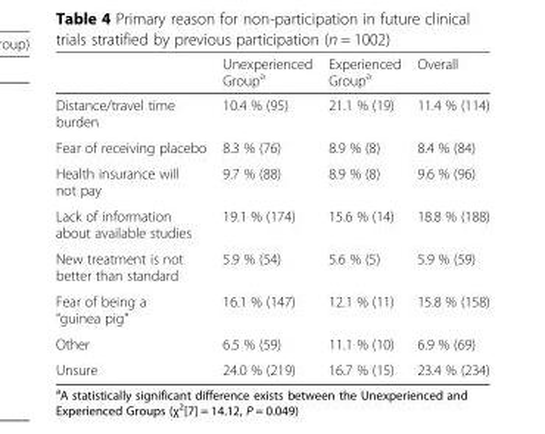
<table><thead><tr><td></td><td>Unexperienced Group<sup>a</sup></td><td>Experienced Group<sup>a</sup></td><td>Overall</td></tr></thead><tbody><tr><td>Distance/travel time burden</td><td>10.4 % (95)</td><td>21.1 % (19)</td><td>11.4 % (114)</td></tr><tr><td>Fear of receiving placebo</td><td>8.3 % (76)</td><td>8.9 % (8)</td><td>8.4 % (84)</td></tr><tr><td>Health insurance will not pay</td><td>9.7 % (88)</td><td>8.9 % (8)</td><td>9.6 % (96)</td></tr><tr><td>Lack of information about available studies</td><td>19.1 % (174)</td><td>15.6 % (14)</td><td>18.8 % (188)</td></tr><tr><td>New treatment is not better than standard</td><td>5.9 % (54)</td><td>5.6 % (5)</td><td>5.9 % (59)</td></tr><tr><td>Fear of being a “guinea pig”</td><td>16.1 % (147)</td><td>12.1 % (11)</td><td>15.8 % (158)</td></tr><tr><td>Other</td><td>6.5 % (59)</td><td>11.1 % (10)</td><td>6.9 % (69)</td></tr><tr><td>Unsure</td><td>24.0 % (219)</td><td>16.7 % (15)</td><td>23.4 % (234)</td></tr></tbody></table>